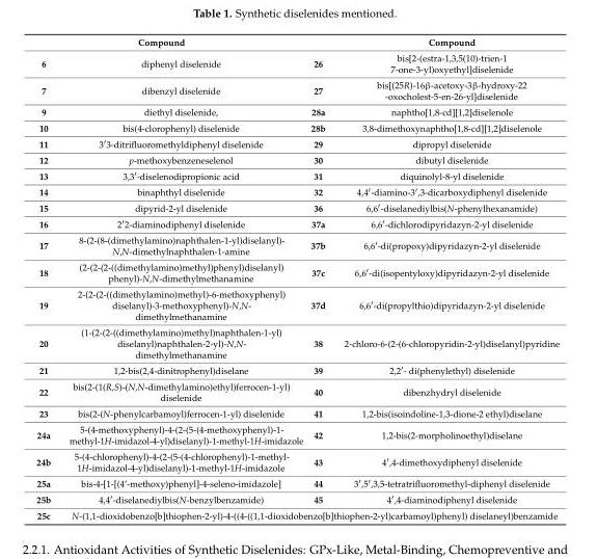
<table><thead><tr><td colspan="2">Compound</td><td rowspan="2">26</td><td rowspan="2">Compound bis[2-(estra-1,3,5(10)-trien-1 7-one-3-yl)oxyethyl]diselenide</td></tr><tr><td>6</td><td>diphenyl diselenide</td></tr></thead><tbody><tr><td>7</td><td>dibenzyl diselenide</td><td>27</td><td>bis[(25R)-16β-acetoxy-3β-hydroxy-22 -oxocholest-5-en-26-yl]diselenide</td></tr><tr><td>9</td><td>diethyl diselenide,</td><td>28a</td><td>naphtho[1,8-cd][1,2]diselenole</td></tr><tr><td>10</td><td>bis(4-clorophenyl) diselenide</td><td>28b</td><td>3,8-dimethoxynaphtho[1,8-cd][1,2]diselenole</td></tr><tr><td>11</td><td>3′3-ditrifluoromethyldiphenyl diselenide</td><td>29</td><td>dipropyl diselenide</td></tr><tr><td>12</td><td>p-methoxybenzeneselenol</td><td>30</td><td>dibutyl diselenide</td></tr><tr><td>13</td><td>3,3′-diselenodipropionic acid</td><td>31</td><td>diquinolyl-8-yl diselenide</td></tr><tr><td>14</td><td>binaphthyl diselenide</td><td>32</td><td>4,4′-diamino-3′,3-dicarboxydiphenyl diselenide</td></tr><tr><td>15</td><td>dipyrid-2-yl diselenide</td><td>36</td><td>6,6′-diselanediylbis(N-phenylhexanamide)</td></tr><tr><td>16</td><td>2′2-diaminodiphenyl diselenide</td><td>37a</td><td>6,6′-dichlorodipyridazyn-2-yl diselenide</td></tr><tr><td>17</td><td>8-(2-(8-(dimethylamino)naphthalen-1-yl)diselanyl)- N,N-dimethylnaphthalen-1-amine</td><td>37b</td><td>6,6′-di(propoxy)dipyridazyn-2-yl diselenide</td></tr><tr><td>18</td><td>(2-(2-(2-((dimethylamino)methyl)phenyl)diselanyl) phenyl)-N,N-dimethylmethanamine</td><td>37c</td><td>6,6′-di(isopentyloxy)dipyridazyn-2-yl diselenide</td></tr><tr><td>19</td><td>2-(2-(2-((dimethylamino)methyl)-6-methoxyphenyl) diselanyl)-3-methoxyphenyl)-N,N- dimethylmethanamine</td><td>37d</td><td>6,6′-di(propylthio)dipyridazyn-2-yl diselenide</td></tr><tr><td>20</td><td>(1-(2-(2-((dimethylamino)methyl)naphthalen-1-yl) diselanyl)naphthalen-2-yl)-N,N- dimethylmethanamine</td><td>38</td><td>2-chloro-6-(2-(6-chloropyridin-2-yl)diselanyl)pyridine</td></tr><tr><td>21</td><td>1,2-bis(2,4-dinitrophenyl)diselane</td><td>39</td><td>2,2′- di(phenylethyl) diselenide</td></tr><tr><td>22</td><td>bis(2-(1(R,S)-(N,N-dimethylamino)ethyl)ferrocen-1-yl) diselenide</td><td>40</td><td>dibenzhydryl diselenide</td></tr><tr><td>23</td><td>bis(2-(N-phenylcarbamoyl)ferrocen-1-yl) diselenide</td><td>41</td><td>1,2-bis(isoindoline-1,3-dione-2 ethyl)diselane</td></tr><tr><td>24a</td><td>5-(4-methoxyphenyl)-4-(2-(5-(4-methoxyphenyl)-1- methyl-1H-imidazol-4-yl)diselanyl)-1-methyl-1H-imidazole</td><td>42</td><td>1,2-bis(2-morpholinoethyl)diselane</td></tr><tr><td>24b</td><td>5-(4-chlorophenyl)-4-(2-(5-(4-chlorophenyl)-1-methyl- 1H-imidazol-4-yl)diselanyl)-1-methyl-1H-imidazole</td><td>43</td><td>4′,4-dimethoxydiphenyl diselenide</td></tr><tr><td>25a</td><td>bis-4-[1-[(4’-methoxy)phenyl]-4-seleno-imidazole]</td><td>44</td><td>3′,5′,3,5-tetratrifluoromethyl-diphenyl diselenide</td></tr><tr><td>25b</td><td>4,4′-diselanediylbis(N-benzylbenzamide)</td><td>45</td><td>4′,4-diaminodiphenyl diselenide</td></tr><tr><td>25c</td><td colspan="3">N-(1,1-dioxidobenzo[b]thiophen-2-yl)-4-((4-((1,1-dioxidobenzo[b]thiophen-2-yl)carbamoyl)phenyl) diselaneyl)benzamide</td></tr></tbody></table>